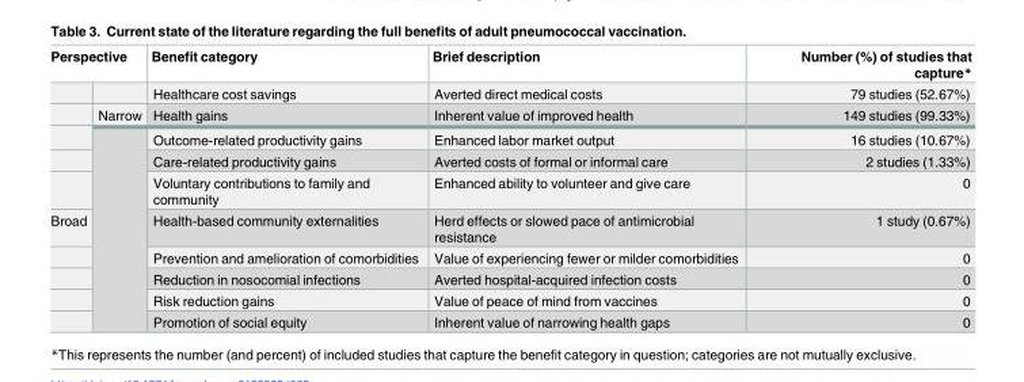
<table><thead><tr><td colspan="2">Perspective</td><td rowspan="2">Benefit category Healthcare cost savings</td><td rowspan="2">Brief description Averted direct medical costs</td><td rowspan="2">Number (%) of studies that capture* 79 studies (52.67%)</td></tr><tr><td></td><td></td></tr></thead><tbody><tr><td></td><td>Narrow</td><td>Health gains</td><td>Inherent value of improved health</td><td>149 studies (99.33%)</td></tr><tr><td></td><td rowspan="8"></td><td>Outcome-related productivity gains</td><td>Enhanced labor market output</td><td>16 studies (10.67%)</td></tr><tr><td></td><td>Care-related productivity gains</td><td>Averted costs of formal or informal care</td><td>2 studies (1.33%)</td></tr><tr><td></td><td>Voluntary contributions to family and community</td><td>Enhanced ability to volunteer and give care</td><td>0</td></tr><tr><td rowspan="5">Broad</td><td>Health-based community externalities</td><td>Herd effects or slowed pace of antimicrobial resistance</td><td>1 study (0.67%)</td></tr><tr><td>Prevention and amelioration of comorbidities</td><td>Value of experiencing fewer or milder comorbidities</td><td>0</td></tr><tr><td>Reduction in nosocomial infections</td><td>Averted hospital-acquired infection costs</td><td>0</td></tr><tr><td>Risk reduction gains</td><td>Value of peace of mind from vaccines</td><td>0</td></tr><tr><td>Promotion of social equity</td><td>Inherent value of narrowing health gaps</td><td>0</td></tr></tbody></table>